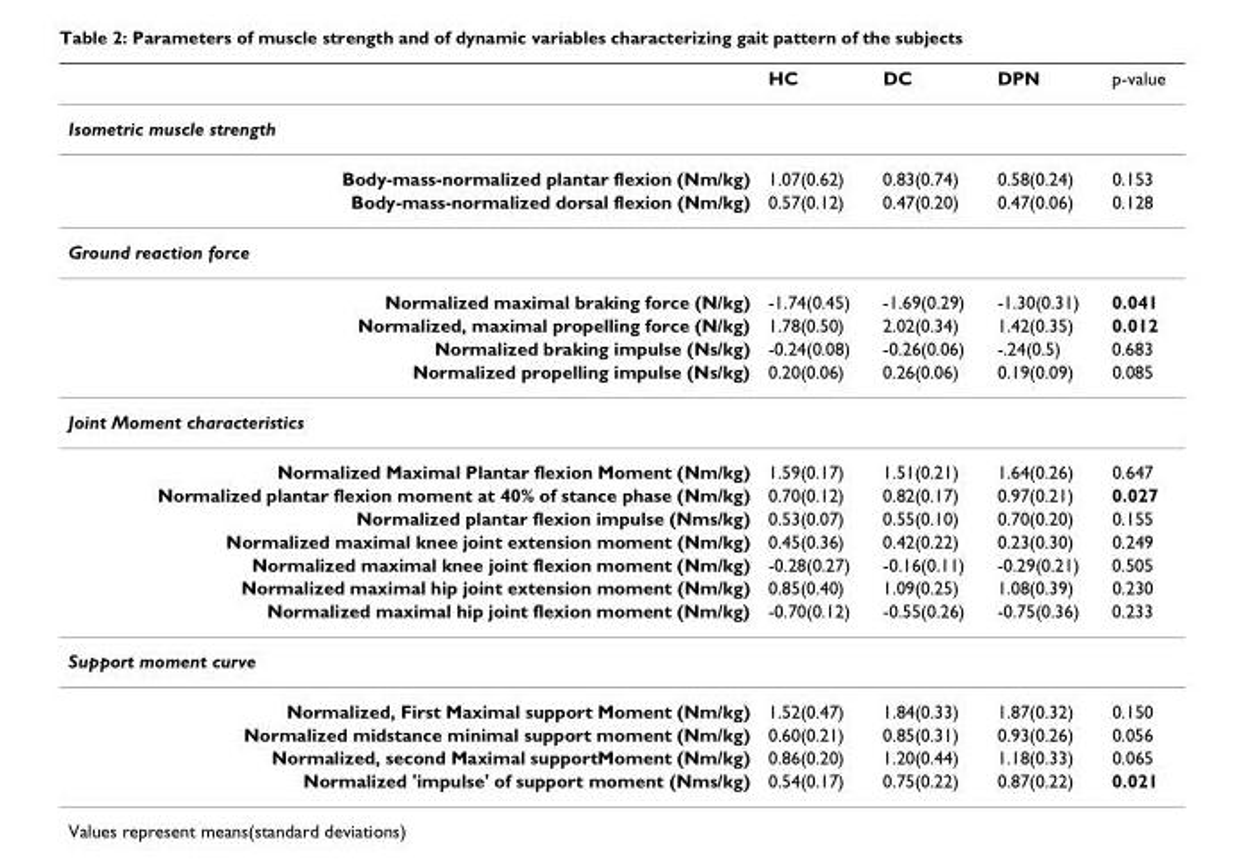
<table><thead><tr><td></td><td>HC</td><td>DC</td><td>DPN</td><td>p-value</td></tr></thead><tbody><tr><td colspan="5">Isometric muscle strength</td></tr><tr><td>Body-mass-normalized plantar flexion (Nm/kg)</td><td>1.07(0.62)</td><td>0.83(0.74)</td><td>0.58(0.24)</td><td>0.153</td></tr><tr><td>Body-mass-normalized dorsal flexion (Nm/kg)</td><td>0.57(0.12)</td><td>0.47(0.20)</td><td>0.47(0.06)</td><td>0.128</td></tr><tr><td colspan="5">Ground reaction force</td></tr><tr><td>Normalized maximal braking force (N/kg)</td><td>-1.74(0.45)</td><td>-1.69(0.29)</td><td>-1.30(0.31)</td><td>0.041</td></tr><tr><td>Normalized, maximal propelling force (N/kg)</td><td>1.78(0.50)</td><td>2.02(0.34)</td><td>1.42(0.35)</td><td>0.012</td></tr><tr><td>Normalized braking impulse (Ns/kg)</td><td>-0.24(0.08)</td><td>-0.26(0.06)</td><td>-.24(0.5)</td><td>0.683</td></tr><tr><td>Normalized propelling impulse (Ns/kg)</td><td>0.20(0.06)</td><td>0.26(0.06)</td><td>0.19(0.09)</td><td>0.085</td></tr><tr><td colspan="5">Joint Moment characteristics</td></tr><tr><td>Normalized Maximal Plantar flexion Moment (Nm/kg)</td><td>1.59(0.17)</td><td>1.51(0.21)</td><td>1.64(0.26)</td><td>0.647</td></tr><tr><td>Normalized plantar flexion moment at 40% of stance phase (Nm/kg)</td><td>0.70(0.12)</td><td>0.82(0.17)</td><td>0.97(0.21)</td><td>0.027</td></tr><tr><td>Normalized plantar flexion impulse (Nms/kg)</td><td>0.53(0.07)</td><td>0.55(0.10)</td><td>0.70(0.20)</td><td>0.155</td></tr><tr><td>Normalized maximal knee joint extension moment (Nm/kg)</td><td>0.45(0.36)</td><td>0.42(0.22)</td><td>0.23(0.30)</td><td>0.249</td></tr><tr><td>Normalized maximal knee joint flexion moment (Nm/kg)</td><td>-0.28(0.27)</td><td>-0.16(0.11)</td><td>-0.29(0.21)</td><td>0.505</td></tr><tr><td>Normalized maximal hip joint extension moment (Nm/kg)</td><td>0.85(0.40)</td><td>1.09(0.25)</td><td>1.08(0.39)</td><td>0.230</td></tr><tr><td>Normalized maximal hip joint flexion moment (Nm/kg)</td><td>-0.70(0.12)</td><td>-0.55(0.26)</td><td>-0.75(0.36)</td><td>0.233</td></tr><tr><td colspan="5">Support moment curve</td></tr><tr><td>Normalized, First Maximal support Moment (Nm/kg)</td><td>1.52(0.47)</td><td>1.84(0.33)</td><td>1.87(0.32)</td><td>0.150</td></tr><tr><td>Normalized midstance minimal support moment (Nm/kg)</td><td>0.60(0.21)</td><td>0.85(0.31)</td><td>0.93(0.26)</td><td>0.056</td></tr><tr><td>Normalized, second Maximal supportMoment (Nm/kg)</td><td>0.86(0.20)</td><td>1.20(0.44)</td><td>1.18(0.33)</td><td>0.065</td></tr><tr><td>Normalized &#x27;impulse&#x27; of support moment (Nms/kg)</td><td>0.54(0.17)</td><td>0.75(0.22)</td><td>0.87(0.22)</td><td>0.021</td></tr></tbody></table>